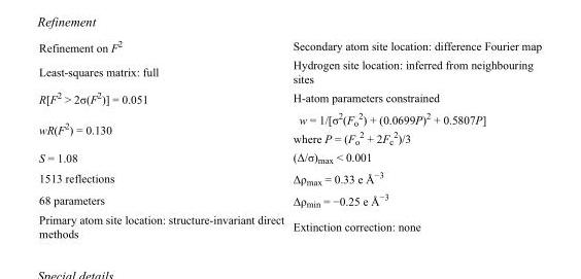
<table><tbody><tr><td>Refinement on F<sup>2</sup></td><td>Secondary atom site location: difference Fourier map</td></tr><tr><td>Least-squares matrix: full</td><td>Hydrogen site location: inferred from neighbouring sites</td></tr><tr><td>R[F<sup>2</sup> &gt; 2σ(F<sup>2</sup>)] = 0.051</td><td>H-atom parameters constrained</td></tr><tr><td>wR(F<sup>2</sup>) = 0.130</td><td>w = 1/[σ<sup>2</sup>(F<sub>o</sub> <sup>2</sup>) + (0.0699P)<sup>2</sup> + 0.5807P] where P = (F<sub>o</sub> <sup>2</sup> + 2F<sub>c</sub> <sup>2</sup>)/3</td></tr><tr><td>S = 1.08</td><td>(Δ/σ)<sub>max</sub> &lt; 0.001</td></tr><tr><td>1513 reflections</td><td>Δρ<sub>max</sub> = 0.33 e Å<sup>−3</sup></td></tr><tr><td>68 parameters</td><td>Δρ<sub>min</sub> = −0.25 e Å<sup>−3</sup></td></tr><tr><td>Primary atom site location: structure-invariant direct methods</td><td>Extinction correction: none</td></tr></tbody></table>